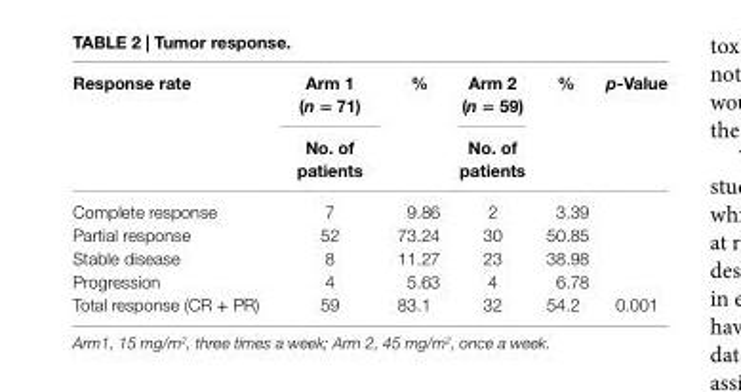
<table><thead><tr><td rowspan="2">response rate</td><td rowspan="2">arm 1 (n = 71) no. of patients</td><td rowspan="2">%</td><td rowspan="2">arm 2 (n = 59) no. of patients</td><td rowspan="2">%</td><td rowspan="2">p-Value</td></tr><tr></tr></thead><tbody><tr><td>Complete response</td><td>7</td><td>9.86</td><td>2</td><td>3.39</td><td></td></tr><tr><td>Partial response</td><td>52</td><td>73.24</td><td>30</td><td>50.85</td><td></td></tr><tr><td>Stable disease</td><td>8</td><td>11.27</td><td>23</td><td>38.98</td><td></td></tr><tr><td>Progression</td><td>4</td><td>5.63</td><td>4</td><td>6.78</td><td></td></tr><tr><td>Total response (CR + PR)</td><td>59</td><td>83.1</td><td>32</td><td>54.2</td><td>0.001</td></tr></tbody></table>